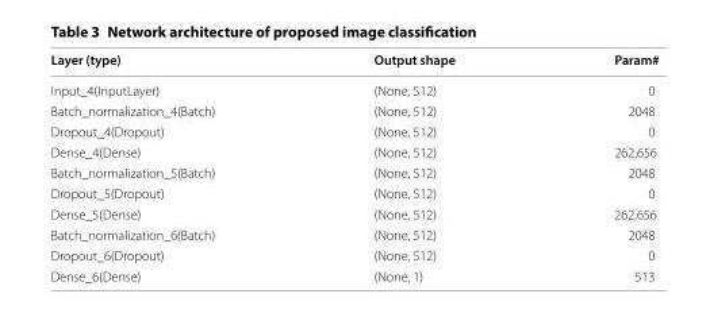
<table><thead><tr><td>Layer (type)</td><td>Output shape</td><td>Param#</td></tr></thead><tbody><tr><td>Input_4(InputLayer)</td><td>(None, 512)</td><td>0</td></tr><tr><td>Batch_normalization_4(Batch)</td><td>(None, 512)</td><td>2048</td></tr><tr><td>Dropout_4(Dropout)</td><td>(None, 512)</td><td>0</td></tr><tr><td>Dense_4(Dense)</td><td>(None, 512)</td><td>262,656</td></tr><tr><td>Batch_normalization_5(Batch)</td><td>(None, 512)</td><td>2048</td></tr><tr><td>Dropout_5(Dropout)</td><td>(None, 512)</td><td>0</td></tr><tr><td>Dense_5(Dense)</td><td>(None, 512)</td><td>262,656</td></tr><tr><td>Batch_normalization_6(Batch)</td><td>(None, 512)</td><td>2048</td></tr><tr><td>Dropout_6(Dropout)</td><td>(None, 512)</td><td>0</td></tr><tr><td>Dense_6(Dense)</td><td>(None, 1)</td><td>513</td></tr></tbody></table>